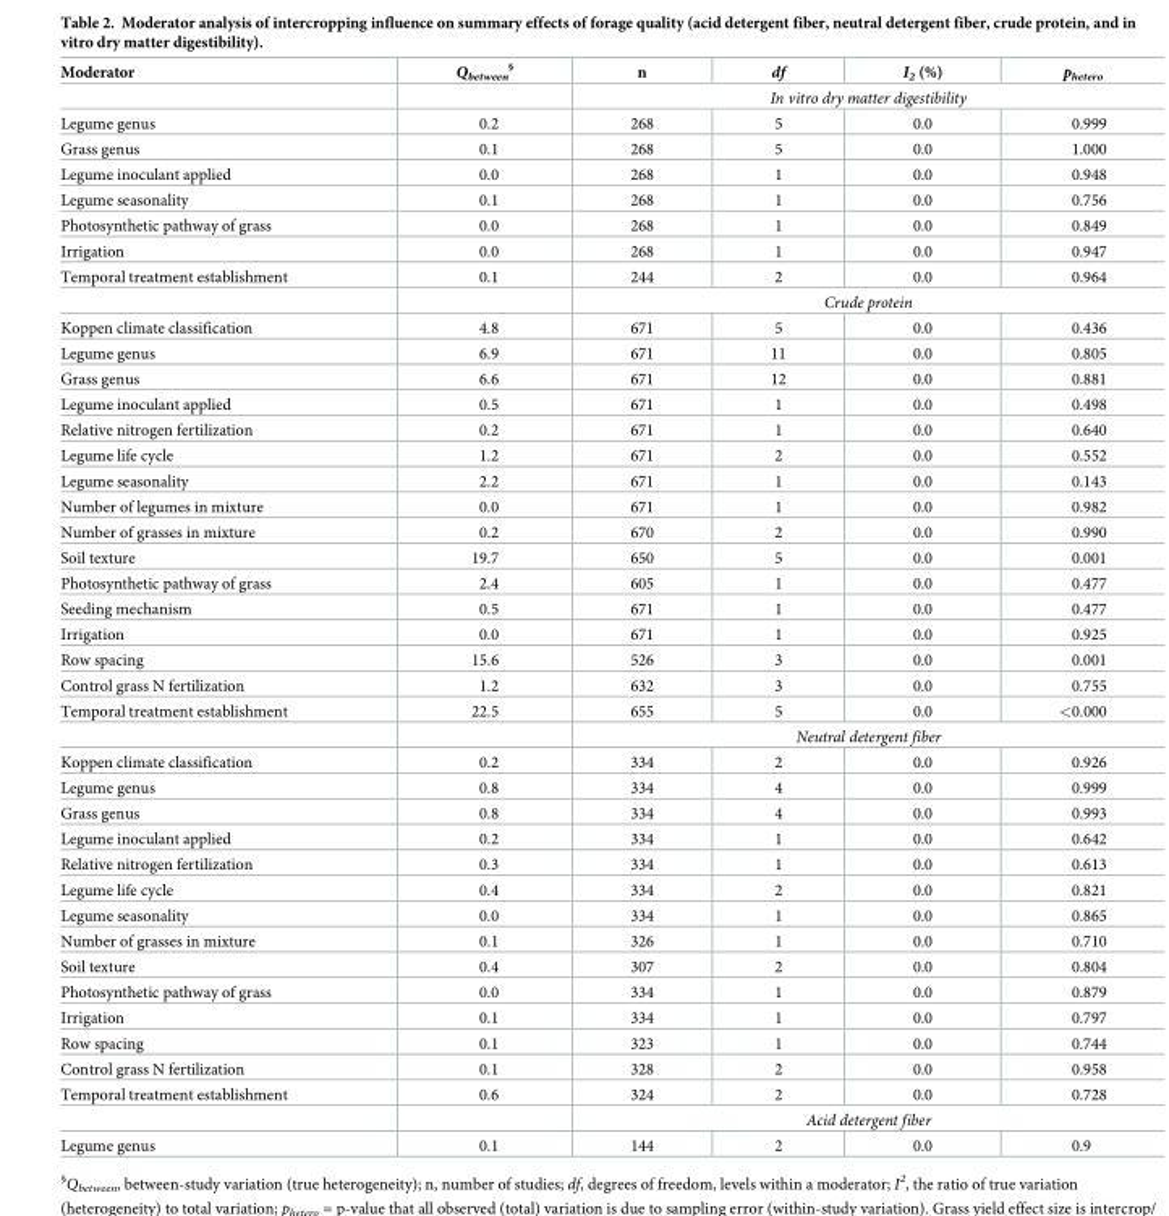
<table><thead><tr><td>Moderator</td><td>Q<sub>between</sub> <sup>§</sup></td><td>n</td><td>df</td><td>I<sub>2</sub> (%)</td><td>p<sub>hetero</sub></td></tr></thead><tbody><tr><td></td><td></td><td colspan="4">In vitro dry matter digestibility</td></tr><tr><td>Legume genus</td><td>0.2</td><td>268</td><td>5</td><td>0.0</td><td>0.999</td></tr><tr><td>Grass genus</td><td>0.1</td><td>268</td><td>5</td><td>0.0</td><td>1.000</td></tr><tr><td>Legume inoculant applied</td><td>0.0</td><td>268</td><td>1</td><td>0.0</td><td>0.948</td></tr><tr><td>Legume seasonality</td><td>0.1</td><td>268</td><td>1</td><td>0.0</td><td>0.756</td></tr><tr><td>Photosynthetic pathway of grass</td><td>0.0</td><td>268</td><td>1</td><td>0.0</td><td>0.849</td></tr><tr><td>Irrigation</td><td>0.0</td><td>268</td><td>1</td><td>0.0</td><td>0.947</td></tr><tr><td rowspan="2">Temporal treatment establishment</td><td>0.1</td><td>244</td><td>2</td><td>0.0</td><td>0.964</td></tr><tr><td></td><td colspan="4">Crude protein</td></tr><tr><td>Koppen climate classification</td><td>4.8</td><td>671</td><td>5</td><td>0.0</td><td>0.436</td></tr><tr><td>Legume genus</td><td>6.9</td><td>671</td><td>11</td><td>0.0</td><td>0.805</td></tr><tr><td>Grass genus</td><td>6.6</td><td>671</td><td>12</td><td>0.0</td><td>0.881</td></tr><tr><td>Legume inoculant applied</td><td>0.5</td><td>671</td><td>1</td><td>0.0</td><td>0.498</td></tr><tr><td>Relative nitrogen fertilization</td><td>0.2</td><td>671</td><td>1</td><td>0.0</td><td>0.640</td></tr><tr><td>Legume life cycle</td><td>1.2</td><td>671</td><td>2</td><td>0.0</td><td>0.552</td></tr><tr><td>Legume seasonality</td><td>2.2</td><td>671</td><td>1</td><td>0.0</td><td>0.143</td></tr><tr><td>Number of legumes in mixture</td><td>0.0</td><td>671</td><td>1</td><td>0.0</td><td>0.982</td></tr><tr><td>Number of grasses in mixture</td><td>0.2</td><td>670</td><td>2</td><td>0.0</td><td>0.990</td></tr><tr><td>Soil texture</td><td>19.7</td><td>650</td><td>5</td><td>0.0</td><td>0.001</td></tr><tr><td>Photosynthetic pathway of grass</td><td>2.4</td><td>605</td><td>1</td><td>0.0</td><td>0.477</td></tr><tr><td>Seeding mechanism</td><td>0.5</td><td>671</td><td>1</td><td>0.0</td><td>0.477</td></tr><tr><td>Irrigation</td><td>0.0</td><td>671</td><td>1</td><td>0.0</td><td>0.925</td></tr><tr><td>Row spacing</td><td>15.6</td><td>526</td><td>3</td><td>0.0</td><td>0.001</td></tr><tr><td>Control grass N fertilization</td><td>1.2</td><td>632</td><td>3</td><td>0.0</td><td>0.755</td></tr><tr><td rowspan="2">Temporal treatment establishment</td><td>22.5</td><td>655</td><td>5</td><td>0.0</td><td>&lt;0.000</td></tr><tr><td></td><td colspan="4">Neutral detergent fiber</td></tr><tr><td>Koppen climate classification</td><td>0.2</td><td>334</td><td>2</td><td>0.0</td><td>0.926</td></tr><tr><td>Legume genus</td><td>0.8</td><td>334</td><td>4</td><td>0.0</td><td>0.999</td></tr><tr><td>Grass genus</td><td>0.8</td><td>334</td><td>4</td><td>0.0</td><td>0.993</td></tr><tr><td>Legume inoculant applied</td><td>0.2</td><td>334</td><td>1</td><td>0.0</td><td>0.642</td></tr><tr><td>Relative nitrogen fertilization</td><td>0.3</td><td>334</td><td>1</td><td>0.0</td><td>0.613</td></tr><tr><td>Legume life cycle</td><td>0.4</td><td>334</td><td>2</td><td>0.0</td><td>0.821</td></tr><tr><td>Legume seasonality</td><td>0.0</td><td>334</td><td>1</td><td>0.0</td><td>0.865</td></tr><tr><td>Number of grasses in mixture</td><td>0.1</td><td>326</td><td>1</td><td>0.0</td><td>0.710</td></tr><tr><td>Soil texture</td><td>0.4</td><td>307</td><td>2</td><td>0.0</td><td>0.804</td></tr><tr><td>Photosynthetic pathway of grass</td><td>0.0</td><td>334</td><td>1</td><td>0.0</td><td>0.879</td></tr><tr><td>Irrigation</td><td>0.1</td><td>334</td><td>1</td><td>0.0</td><td>0.797</td></tr><tr><td>Row spacing</td><td>0.1</td><td>323</td><td>1</td><td>0.0</td><td>0.744</td></tr><tr><td>Control grass N fertilization</td><td>0.1</td><td>328</td><td>2</td><td>0.0</td><td>0.958</td></tr><tr><td rowspan="2">Temporal treatment establishment</td><td>0.6</td><td>324</td><td>2</td><td>0.0</td><td>0.728</td></tr><tr><td></td><td colspan="4">Acid detergent fiber</td></tr><tr><td>Legume genus</td><td>0.1</td><td>144</td><td>2</td><td>0.0</td><td>0.9</td></tr></tbody></table>